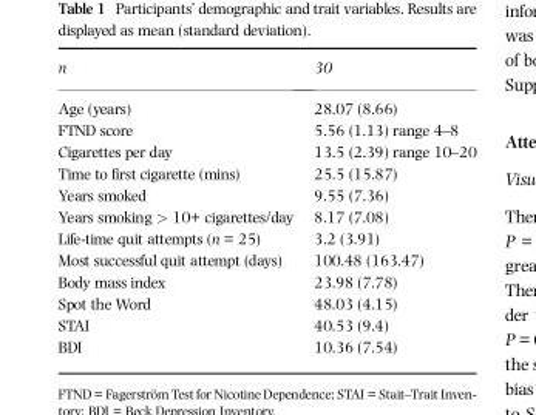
<table><thead><tr><td>n</td><td>30</td></tr></thead><tbody><tr><td>Age (years)</td><td>28.07 (8.66)</td></tr><tr><td>FTND score</td><td>5.56 (1.13) range 4–8</td></tr><tr><td>Cigarettes per day</td><td>13.5 (2.39) range 10–20</td></tr><tr><td>Time to first cigarette (mins)</td><td>25.5 (15.87)</td></tr><tr><td>Years smoked</td><td>9.55 (7.36)</td></tr><tr><td>Years smoking &gt; 10+ cigarettes/day</td><td>8.17 (7.08)</td></tr><tr><td>Life-time quit attempts (n = 25)</td><td>3.2 (3.91)</td></tr><tr><td>Most successful quit attempt (days)</td><td>100.48 (163.47)</td></tr><tr><td>Body mass index</td><td>23.98 (7.78)</td></tr><tr><td>Spot the Word</td><td>48.03 (4.15)</td></tr><tr><td>STAI</td><td>40.53 (9.4)</td></tr><tr><td>BDI</td><td>10.36 (7.54)</td></tr></tbody></table>